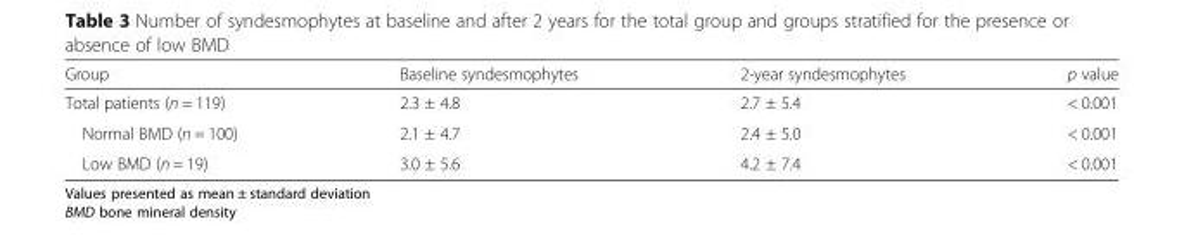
<table><thead><tr><td>Group</td><td>Baseline syndesmophytes</td><td>2-year syndesmophytes</td><td>p value</td></tr></thead><tbody><tr><td>Total patients (n = 119)</td><td>2.3 ± 4.8</td><td>2.7 ± 5.4</td><td>&lt; 0.001</td></tr><tr><td>Normal BMD (n = 100)</td><td>2.1 ± 4.7</td><td>2.4 ± 5.0</td><td>&lt; 0.001</td></tr><tr><td>Low BMD (n = 19)</td><td>3.0 ± 5.6</td><td>4.2 ± 7.4</td><td>&lt; 0.001</td></tr></tbody></table>